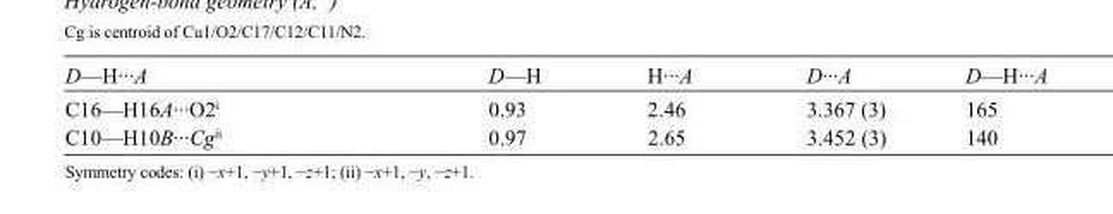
<table><tbody><tr><td>D—H···A</td><td>D—H</td><td>H···A</td><td>D···A</td><td>D—H···A</td></tr><tr><td>C16—H16A···O2<sup>i</sup></td><td>0.93</td><td>2.46</td><td>3.367 (3)</td><td>165</td></tr><tr><td>C10—H10B···Cg<sup>ii</sup></td><td>0.97</td><td>2.65</td><td>3.452 (3)</td><td>140</td></tr></tbody></table>